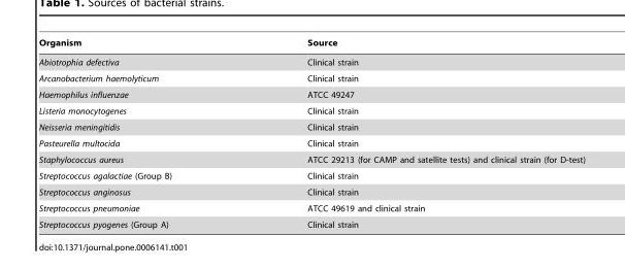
<table><thead><tr><td>Organism</td><td>Source</td></tr></thead><tbody><tr><td>Abiotrophia defectiva</td><td>Clinical strain</td></tr><tr><td>Arcanobacterium haemolyticum</td><td>Clinical strain</td></tr><tr><td>Haemophilus influenzae</td><td>ATCC 49247</td></tr><tr><td>Listeria monocytogenes</td><td>Clinical strain</td></tr><tr><td>Neisseria meningitidis</td><td>Clinical strain</td></tr><tr><td>Pasteurella multocida</td><td>Clinical strain</td></tr><tr><td>Staphylococcus aureus</td><td>ATCC 29213 (for CAMP and satellite tests) and clinical strain (for D-test)</td></tr><tr><td>Streptococcus agalactiae (Group B)</td><td>Clinical strain</td></tr><tr><td>Streptococcus anginosus</td><td>Clinical strain</td></tr><tr><td>Streptococcus pneumoniae</td><td>ATCC 49619 and clinical strain</td></tr><tr><td>Streptococcus pyogenes (Group A)</td><td>Clinical strain</td></tr></tbody></table>